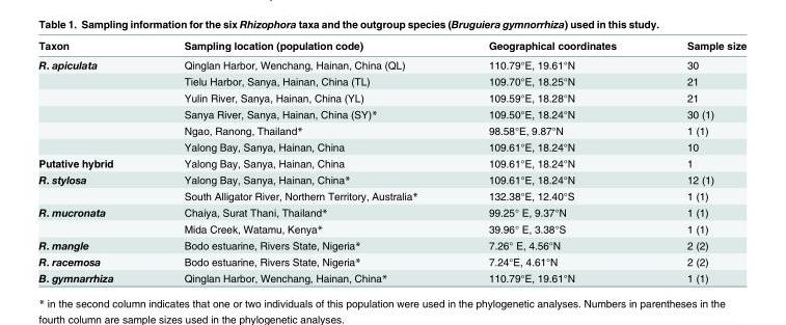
<table><thead><tr><td>Taxon</td><td>Sampling location (population code)</td><td>Geographical coordinates</td><td>Sample size</td></tr></thead><tbody><tr><td rowspan="6">R. apiculata</td><td>Qinglan Harbor, Wenchang, Hainan, China (QL)</td><td>110.79°E, 19.61°N</td><td>30</td></tr><tr><td>Tielu Harbor, Sanya, Hainan, China (TL)</td><td>109.70°E, 18.25°N</td><td>21</td></tr><tr><td>Yulin River, Sanya, Hainan, China (YL)</td><td>109.59°E, 18.28°N</td><td>21</td></tr><tr><td>Sanya River, Sanya, Hainan, China (SY)*</td><td>109.50°E, 18.24°N</td><td>30 (1)</td></tr><tr><td>Ngao, Ranong, Thailand*</td><td>98.58°E, 9.87°N</td><td>1 (1)</td></tr><tr><td>Yalong Bay, Sanya, Hainan, China</td><td>109.61°E, 18.24°N</td><td>10</td></tr><tr><td>Putative hybrid</td><td>Yalong Bay, Sanya, Hainan, China</td><td>109.61°E, 18.24°N</td><td>1</td></tr><tr><td rowspan="2">R. stylosa</td><td>Yalong Bay, Sanya, Hainan, China*</td><td>109.61°E, 18.24°N</td><td>12 (1)</td></tr><tr><td>South Alligator River, Northern Territory, Australia*</td><td>132.38°E, 12.40°S</td><td>1 (1)</td></tr><tr><td rowspan="2">R. mucronata</td><td>Chaiya, Surat Thani, Thailand*</td><td>99.25° E, 9.37°N</td><td>1 (1)</td></tr><tr><td>Mida Creek, Watamu, Kenya*</td><td>39.96° E, 3.38°S</td><td>1 (1)</td></tr><tr><td>R. mangle</td><td>Bodo estuarine, Rivers State, Nigeria*</td><td>7.26° E, 4.56°N</td><td>2 (2)</td></tr><tr><td>R. racemosa</td><td>Bodo estuarine, Rivers State, Nigeria*</td><td>7.24°E, 4.61°N</td><td>2 (2)</td></tr><tr><td>B. gymnarrhiza</td><td>Qinglan Harbor, Wenchang, Hainan, China*</td><td>110.79°E, 19.61°N</td><td>1 (1)</td></tr></tbody></table>